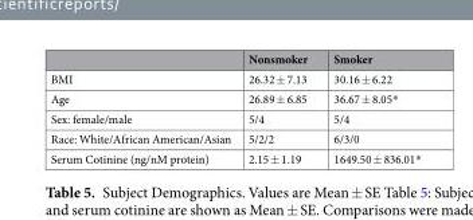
<table><thead><tr><td></td><td>Nonsmoker</td><td>Smoker</td></tr></thead><tbody><tr><td>BMI</td><td>26.32 ± 7.13</td><td>30.16 ± 6.22</td></tr><tr><td>Age</td><td>26.89 ± 6.85</td><td>36.67 ± 8.05*</td></tr><tr><td>Sex: female/male</td><td>5/4</td><td>5/4</td></tr><tr><td>Race: White/African American/Asian</td><td>5/2/2</td><td>6/3/0</td></tr><tr><td>Serum Cotinine (ng/nM protein)</td><td>2.15 ± 1.19</td><td>1649.50 ± 836.01*</td></tr></tbody></table>